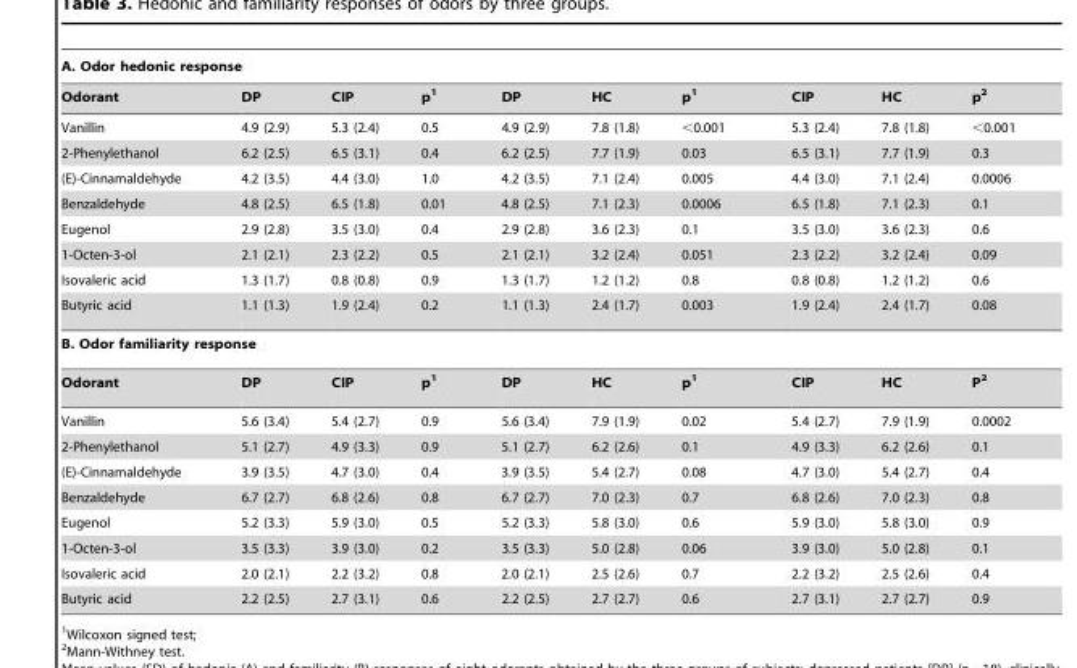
<table><thead><tr><td colspan="10">A. Odor hedonic response</td></tr><tr><td>Odorant</td><td>DP</td><td>CIP</td><td>p<sup>1</sup></td><td>DP</td><td>HC</td><td>p<sup>1</sup></td><td>CIP</td><td>HC</td><td>p<sup>2</sup></td></tr></thead><tbody><tr><td>Vanillin</td><td>4.9 (2.9)</td><td>5.3 (2.4)</td><td>0.5</td><td>4.9 (2.9)</td><td>7.8 (1.8)</td><td>&lt;0.001</td><td>5.3 (2.4)</td><td>7.8 (1.8)</td><td>&lt;0.001</td></tr><tr><td>2-Phenylethanol</td><td>6.2 (2.5)</td><td>6.5 (3.1)</td><td>0.4</td><td>6.2 (2.5)</td><td>7.7 (1.9)</td><td>0.03</td><td>6.5 (3.1)</td><td>7.7 (1.9)</td><td>0.3</td></tr><tr><td>(E)-Cinnamaldehyde</td><td>4.2 (3.5)</td><td>4.4 (3.0)</td><td>1.0</td><td>4.2 (3.5)</td><td>7.1 (2.4)</td><td>0.005</td><td>4.4 (3.0)</td><td>7.1 (2.4)</td><td>0.0006</td></tr><tr><td>Benzaldehyde</td><td>4.8 (2.5)</td><td>6.5 (1.8)</td><td>0.01</td><td>4.8 (2.5)</td><td>7.1 (2.3)</td><td>0.0006</td><td>6.5 (1.8)</td><td>7.1 (2.3)</td><td>0.1</td></tr><tr><td>Eugenol</td><td>2.9 (2.8)</td><td>3.5 (3.0)</td><td>0.4</td><td>2.9 (2.8)</td><td>3.6 (2.3)</td><td>0.1</td><td>3.5 (3.0)</td><td>3.6 (2.3)</td><td>0.6</td></tr><tr><td>1-Octen-3-ol</td><td>2.1 (2.1)</td><td>2.3 (2.2)</td><td>0.5</td><td>2.1 (2.1)</td><td>3.2 (2.4)</td><td>0.051</td><td>2.3 (2.2)</td><td>3.2 (2.4)</td><td>0.09</td></tr><tr><td>Isovaleric acid</td><td>1.3 (1.7)</td><td>0.8 (0.8)</td><td>0.9</td><td>1.3 (1.7)</td><td>1.2 (1.2)</td><td>0.8</td><td>0.8 (0.8)</td><td>1.2 (1.2)</td><td>0.6</td></tr><tr><td>Butyric acid</td><td>1.1 (1.3)</td><td>1.9 (2.4)</td><td>0.2</td><td>1.1 (1.3)</td><td>2.4 (1.7)</td><td>0.003</td><td>1.9 (2.4)</td><td>2.4 (1.7)</td><td>0.08</td></tr><tr><td colspan="10">B. Odor familiarity response</td></tr><tr><td>Odorant</td><td>DP</td><td>CIP</td><td>p1</td><td>DP</td><td>HC</td><td>p1</td><td>CIP</td><td>HC</td><td>P2</td></tr><tr><td>Vanillin</td><td>5.6 (3.4)</td><td>5.4 (2.7)</td><td>0.9</td><td>5.6 (3.4)</td><td>7.9 (1.9)</td><td>0.02</td><td>5.4 (2.7)</td><td>7.9 (1.9)</td><td>0.0002</td></tr><tr><td>2-Phenylethanol</td><td>5.1 (2.7)</td><td>4.9 (3.3)</td><td>0.9</td><td>5.1 (2.7)</td><td>6.2 (2.6)</td><td>0.1</td><td>4.9 (3.3)</td><td>6.2 (2.6)</td><td>0.1</td></tr><tr><td>(E)-Cinnamaldehyde</td><td>3.9 (3.5)</td><td>4.7 (3.0)</td><td>0.4</td><td>3.9 (3.5)</td><td>5.4 (2.7)</td><td>0.08</td><td>4.7 (3.0)</td><td>5.4 (2.7)</td><td>0.4</td></tr><tr><td>Benzaldehyde</td><td>6.7 (2.7)</td><td>6.8 (2.6)</td><td>0.8</td><td>6.7 (2.7)</td><td>7.0 (2.3)</td><td>0.7</td><td>6.8 (2.6)</td><td>7.0 (2.3)</td><td>0.8</td></tr><tr><td>Eugenol</td><td>5.2 (3.3)</td><td>5.9 (3.0)</td><td>0.5</td><td>5.2 (3.3)</td><td>5.8 (3.0)</td><td>0.6</td><td>5.9 (3.0)</td><td>5.8 (3.0)</td><td>0.9</td></tr><tr><td>1-Octen-3-ol</td><td>3.5 (3.3)</td><td>3.9 (3.0)</td><td>0.2</td><td>3.5 (3.3)</td><td>5.0 (2.8)</td><td>0.06</td><td>3.9 (3.0)</td><td>5.0 (2.8)</td><td>0.1</td></tr><tr><td>Isovaleric acid</td><td>2.0 (2.1)</td><td>2.2 (3.2)</td><td>0.8</td><td>2.0 (2.1)</td><td>2.5 (2.6)</td><td>0.7</td><td>2.2 (3.2)</td><td>2.5 (2.6)</td><td>0.4</td></tr><tr><td>Butyric acid</td><td>2.2 (2.5)</td><td>2.7 (3.1)</td><td>0.6</td><td>2.2 (2.5)</td><td>2.7 (2.7)</td><td>0.6</td><td>2.7 (3.1)</td><td>2.7 (2.7)</td><td>0.9</td></tr></tbody></table>